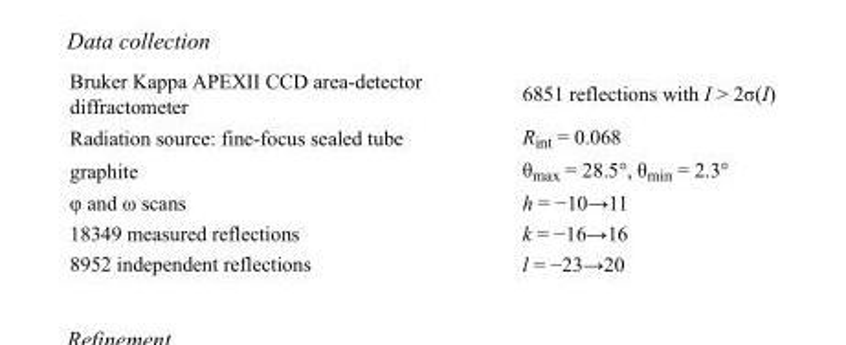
<table><tbody><tr><td>Bruker Kappa APEXII CCD area-detector diffractometer</td><td>6851 reflections with I &gt; 2σ(I)</td></tr><tr><td>Radiation source: fine-focus sealed tube</td><td>R<sub>int</sub> = 0.068</td></tr><tr><td>graphite</td><td>θ<sub>max</sub> = 28.5°, θ<sub>min</sub> = 2.3°</td></tr><tr><td>φ and ω scans</td><td>h = −10→11</td></tr><tr><td>18349 measured reflections</td><td>k = −16→16</td></tr><tr><td>8952 independent reflections</td><td>l = −23→20</td></tr></tbody></table>